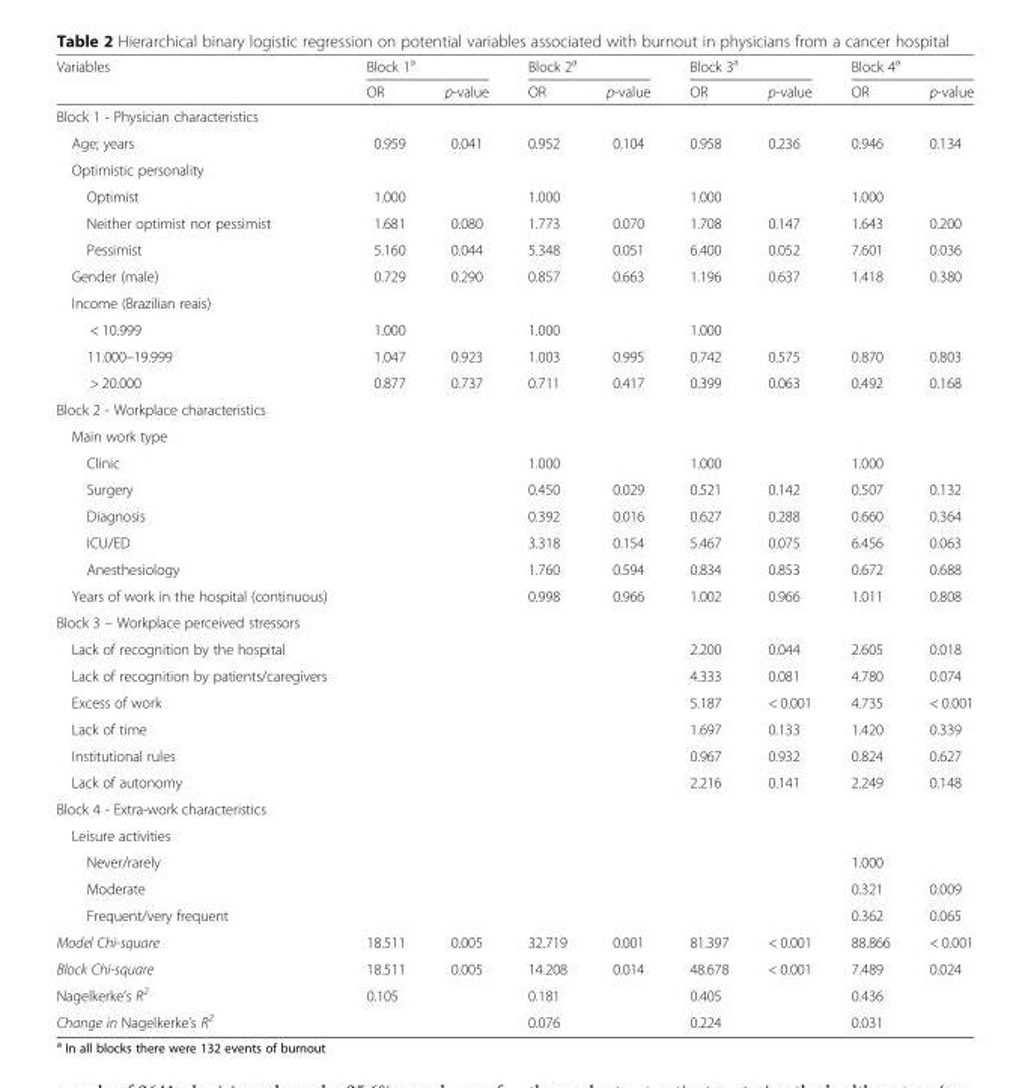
<table><thead><tr><td rowspan="2">Variables</td><td colspan="2">Block 1<sup>a</sup></td><td colspan="2">Block 2<sup>a</sup></td><td colspan="2">Block 3<sup>a</sup></td><td colspan="2">Block 4<sup>a</sup></td></tr><tr><td>OR</td><td>p-value</td><td>OR</td><td>p-value</td><td>OR</td><td>p-value</td><td>OR</td><td>p-value</td></tr></thead><tbody><tr><td colspan="9">Block 1 - Physician characteristics</td></tr><tr><td>Age; years</td><td>0.959</td><td>0.041</td><td>0.952</td><td>0.104</td><td>0.958</td><td>0.236</td><td>0.946</td><td>0.134</td></tr><tr><td colspan="9">Optimistic personality</td></tr><tr><td>Optimist</td><td>1.000</td><td></td><td>1.000</td><td></td><td>1.000</td><td></td><td>1.000</td><td></td></tr><tr><td>Neither optimist nor pessimist</td><td>1.681</td><td>0.080</td><td>1.773</td><td>0.070</td><td>1.708</td><td>0.147</td><td>1.643</td><td>0.200</td></tr><tr><td>Pessimist</td><td>5.160</td><td>0.044</td><td>5.348</td><td>0.051</td><td>6.400</td><td>0.052</td><td>7.601</td><td>0.036</td></tr><tr><td>Gender (male)</td><td>0.729</td><td>0.290</td><td>0.857</td><td>0.663</td><td>1.196</td><td>0.637</td><td>1.418</td><td>0.380</td></tr><tr><td colspan="9">Income (Brazilian reais)</td></tr><tr><td>&lt; 10.999</td><td>1.000</td><td></td><td>1.000</td><td></td><td>1.000</td><td></td><td></td><td></td></tr><tr><td>11.000–19.999</td><td>1.047</td><td>0.923</td><td>1.003</td><td>0.995</td><td>0.742</td><td>0.575</td><td>0.870</td><td>0.803</td></tr><tr><td>&gt; 20.000</td><td>0.877</td><td>0.737</td><td>0.711</td><td>0.417</td><td>0.399</td><td>0.063</td><td>0.492</td><td>0.168</td></tr><tr><td colspan="9">Block 2 - Workplace characteristics</td></tr><tr><td colspan="9">Main work type</td></tr><tr><td>Clinic</td><td></td><td></td><td>1.000</td><td></td><td>1.000</td><td></td><td>1.000</td><td></td></tr><tr><td>Surgery</td><td></td><td></td><td>0.450</td><td>0.029</td><td>0.521</td><td>0.142</td><td>0.507</td><td>0.132</td></tr><tr><td>Diagnosis</td><td></td><td></td><td>0.392</td><td>0.016</td><td>0.627</td><td>0.288</td><td>0.660</td><td>0.364</td></tr><tr><td>ICU/ED</td><td></td><td></td><td>3.318</td><td>0.154</td><td>5.467</td><td>0.075</td><td>6.456</td><td>0.063</td></tr><tr><td>Anesthesiology</td><td></td><td></td><td>1.760</td><td>0.594</td><td>0.834</td><td>0.853</td><td>0.672</td><td>0.688</td></tr><tr><td>Years of work in the hospital (continuous)</td><td></td><td></td><td>0.998</td><td>0.966</td><td>1.002</td><td>0.966</td><td>1.011</td><td>0.808</td></tr><tr><td colspan="9">Block 3 – Workplace perceived stressors</td></tr><tr><td>Lack of recognition by the hospital</td><td></td><td></td><td></td><td></td><td>2.200</td><td>0.044</td><td>2.605</td><td>0.018</td></tr><tr><td>Lack of recognition by patients/caregivers</td><td></td><td></td><td></td><td></td><td>4.333</td><td>0.081</td><td>4.780</td><td>0.074</td></tr><tr><td>Excess of work</td><td></td><td></td><td></td><td></td><td>5.187</td><td>&lt; 0.001</td><td>4.735</td><td>&lt; 0.001</td></tr><tr><td>Lack of time</td><td></td><td></td><td></td><td></td><td>1.697</td><td>0.133</td><td>1.420</td><td>0.339</td></tr><tr><td>Institutional rules</td><td></td><td></td><td></td><td></td><td>0.967</td><td>0.932</td><td>0.824</td><td>0.627</td></tr><tr><td>Lack of autonomy</td><td></td><td></td><td></td><td></td><td>2.216</td><td>0.141</td><td>2.249</td><td>0.148</td></tr><tr><td colspan="9">Block 4 - Extra-work characteristics</td></tr><tr><td colspan="9">Leisure activities</td></tr><tr><td>Never/rarely</td><td></td><td></td><td></td><td></td><td></td><td></td><td>1.000</td><td></td></tr><tr><td>Moderate</td><td></td><td></td><td></td><td></td><td></td><td></td><td>0.321</td><td>0.009</td></tr><tr><td>Frequent/very frequent</td><td></td><td></td><td></td><td></td><td></td><td></td><td>0.362</td><td>0.065</td></tr><tr><td>Model Chi-square</td><td>18.511</td><td>0.005</td><td>32.719</td><td>0.001</td><td>81.397</td><td>&lt; 0.001</td><td>88.866</td><td>&lt; 0.001</td></tr><tr><td>Block Chi-square</td><td>18.511</td><td>0.005</td><td>14.208</td><td>0.014</td><td>48.678</td><td>&lt; 0.001</td><td>7.489</td><td>0.024</td></tr><tr><td>Nagelkerke’s R<sup>2</sup></td><td colspan="2">0.105</td><td colspan="2">0.181</td><td colspan="2">0.405</td><td colspan="2">0.436</td></tr><tr><td>Change in Nagelkerke’s R<sup>2</sup></td><td colspan="2"></td><td colspan="2">0.076</td><td colspan="2">0.224</td><td colspan="2">0.031</td></tr></tbody></table>